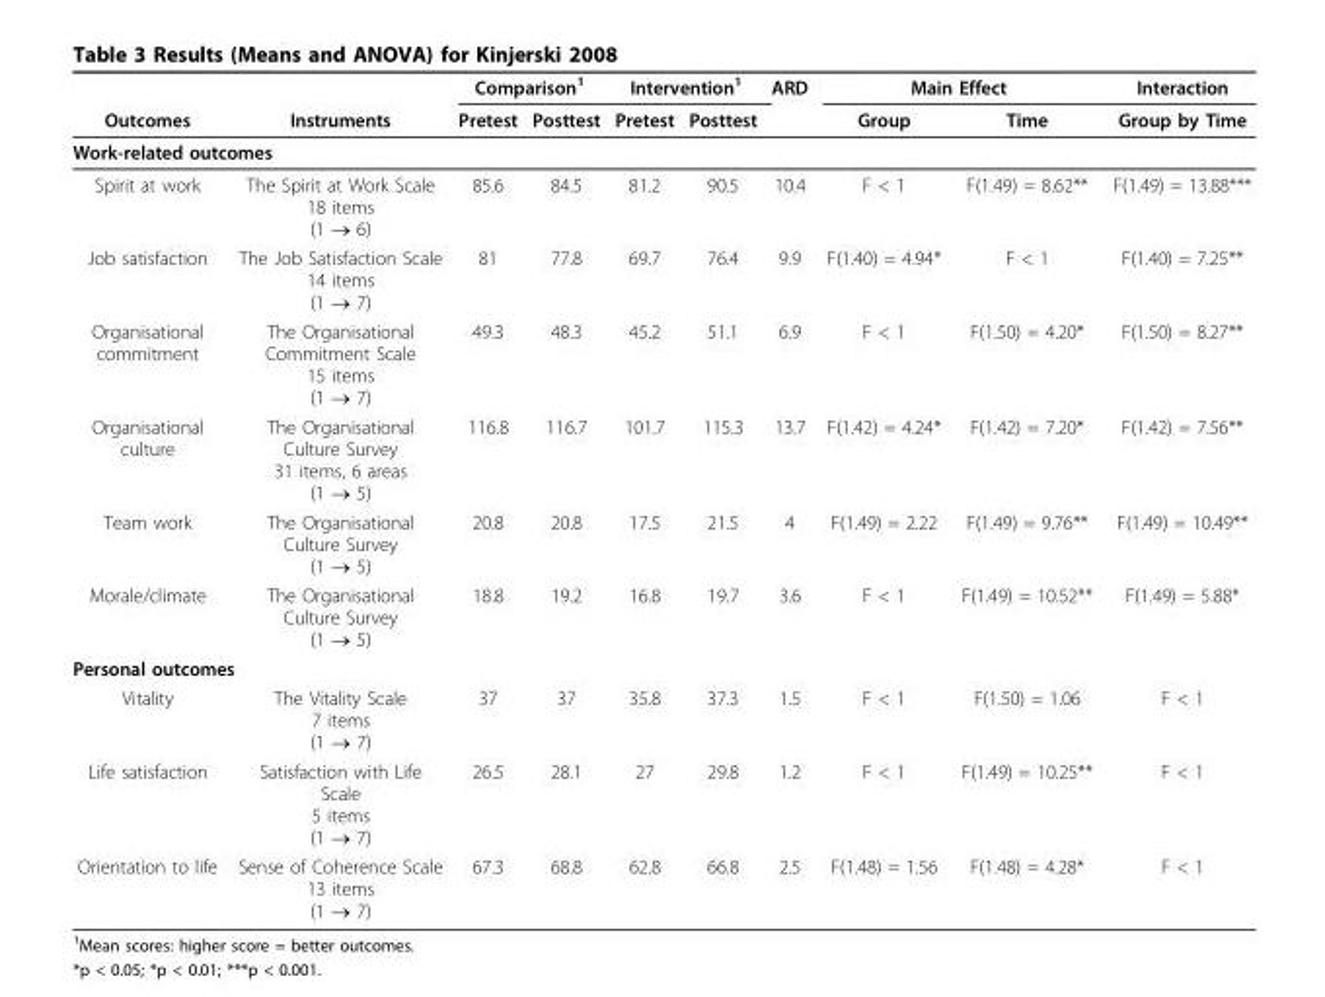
<table><thead><tr><td rowspan="2">Outcomes</td><td rowspan="2">Instruments</td><td colspan="2">Comparison<sup>1</sup></td><td colspan="2">Intervention<sup>1</sup></td><td rowspan="2">ARD</td><td colspan="2">Main Effect</td><td rowspan="2">Interaction Group by Time</td></tr><tr><td>Pretest</td><td>Posttest</td><td>Pretest</td><td>Posttest</td><td>Group</td><td>Time</td></tr></thead><tbody><tr><td colspan="10">Work-related outcomes</td></tr><tr><td>Spirit at work</td><td>The Spirit at Work Scale 18 items (1 → 6)</td><td>85.6</td><td>84.5</td><td>81.2</td><td>90.5</td><td>10.4</td><td>F &lt; 1</td><td>F(1.49) = 8.62**</td><td>F(1.49) = 13.88***</td></tr><tr><td>Job satisfaction</td><td>The Job Satisfaction Scale 14 items (1 → 7)</td><td>81</td><td>77.8</td><td>69.7</td><td>76.4</td><td>9.9</td><td>F(1.40) = 4.94*</td><td>F &lt; 1</td><td>F(1.40) = 7.25**</td></tr><tr><td>Organisational commitment</td><td>The Organisational Commitment Scale 15 items (1 → 7)</td><td>49.3</td><td>48.3</td><td>45.2</td><td>51.1</td><td>6.9</td><td>F &lt; 1</td><td>F(1.50) = 4.20*</td><td>F(1.50) = 8.27**</td></tr><tr><td>Organisational culture</td><td>The Organisational Culture Survey 31 items, 6 areas (1 → 5)</td><td>116.8</td><td>116.7</td><td>101.7</td><td>115.3</td><td>13.7</td><td>F(1.42) = 4.24*</td><td>F(1.42) = 7.20*</td><td>F(1.42) = 7.56**</td></tr><tr><td>Team work</td><td>The Organisational Culture Survey (1 → 5)</td><td>20.8</td><td>20.8</td><td>17.5</td><td>21.5</td><td>4</td><td>F(1.49) = 2.22</td><td>F(1.49) = 9.76**</td><td>F(1.49) = 10.49**</td></tr><tr><td>Morale/climate</td><td>The Organisational Culture Survey (1 → 5)</td><td>18.8</td><td>19.2</td><td>16.8</td><td>19.7</td><td>3.6</td><td>F &lt; 1</td><td>F(1.49) = 10.52**</td><td>F(1.49) = 5.88*</td></tr><tr><td colspan="10">Personal outcomes</td></tr><tr><td>Vitality</td><td>The Vitality Scale 7 items (1 → 7)</td><td>37</td><td>37</td><td>35.8</td><td>37.3</td><td>1.5</td><td>F &lt; 1</td><td>F(1.50) = 1.06</td><td>F &lt; 1</td></tr><tr><td>Life satisfaction</td><td>Satisfaction with Life Scale 5 items (1 → 7)</td><td>26.5</td><td>28.1</td><td>27</td><td>29.8</td><td>1.2</td><td>F &lt; 1</td><td>F(1.49) = 10.25**</td><td>F &lt; 1</td></tr><tr><td>Orientation to life</td><td>Sense of Coherence Scale 13 items (1 → 7)</td><td>67.3</td><td>68.8</td><td>62.8</td><td>66.8</td><td>2.5</td><td>F(1.48) = 1.56</td><td>F(1.48) = 4.28*</td><td>F &lt; 1</td></tr></tbody></table>